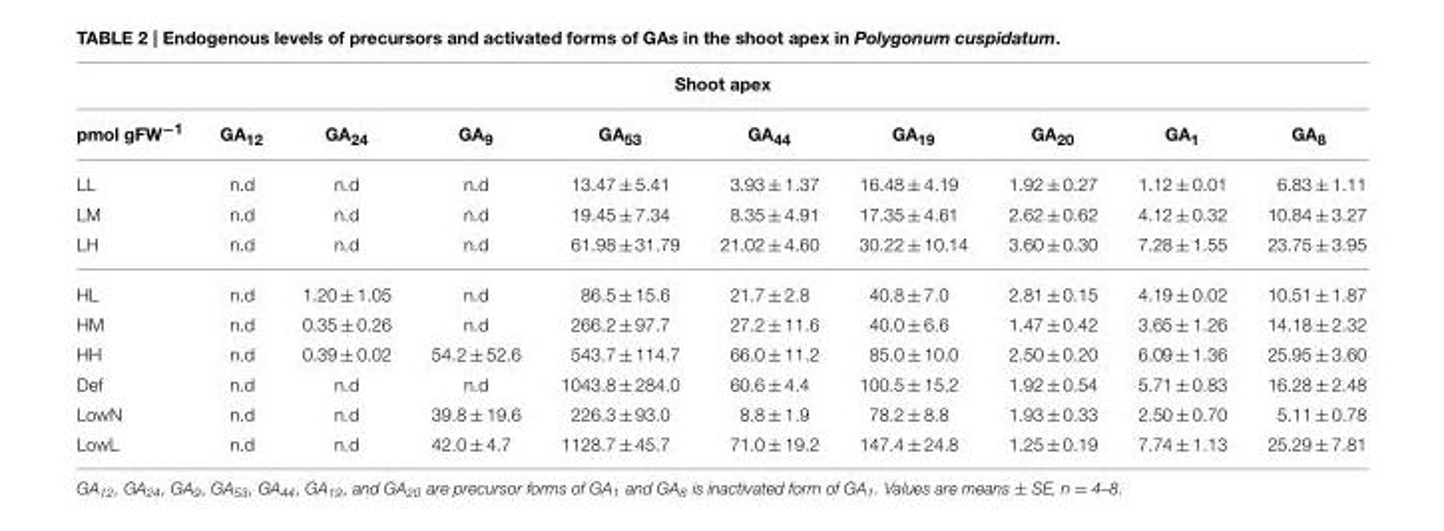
<table><thead><tr><td colspan="10">Shoot apex</td></tr><tr><td>pmol gFW<sup>−1</sup></td><td>GA<sub>12</sub></td><td>GA<sub>24</sub></td><td>GA<sub>9</sub></td><td>GA<sub>53</sub></td><td>GA<sub>44</sub></td><td>GA<sub>19</sub></td><td>GA<sub>20</sub></td><td>GA<sub>1</sub></td><td>GA<sub>8</sub></td></tr></thead><tbody><tr><td>LL</td><td>n.d</td><td>n.d</td><td>n.d</td><td>13.47 ± 5.41</td><td>3.93 ± 1.37</td><td>16.48 ± 4.19</td><td>1.92 ± 0.27</td><td>1.12 ± 0.01</td><td>6.83 ± 1.11</td></tr><tr><td>LM</td><td>n.d</td><td>n.d</td><td>n.d</td><td>19.45 ± 7.34</td><td>8.35 ± 4.91</td><td>17.35 ± 4.61</td><td>2.62 ± 0.62</td><td>4.12 ± 0.32</td><td>10.84 ± 3.27</td></tr><tr><td>LH</td><td>n.d</td><td>n.d</td><td>n.d</td><td>61.98 ± 31.79</td><td>21.02 ± 4.60</td><td>30.22 ± 10.14</td><td>3.60 ± 0.30</td><td>7.28 ± 1.55</td><td>23.75 ± 3.95</td></tr><tr><td>HL</td><td>n.d</td><td>1.20 ± 1.05</td><td>n.d</td><td>86.5 ± 15.6</td><td>21.7 ± 2.8</td><td>40.8 ± 7.0</td><td>2.81 ± 0.15</td><td>4.19 ± 0.02</td><td>10.51 ± 1.87</td></tr><tr><td>HM</td><td>n.d</td><td>0.35 ± 0.26</td><td>n.d</td><td>266.2 ± 97.7</td><td>27.2 ± 11.6</td><td>40.0 ± 6.6</td><td>1.47 ± 0.42</td><td>3.65 ± 1.26</td><td>14.18 ± 2.32</td></tr><tr><td>HH</td><td>n.d</td><td>0.39 ± 0.02</td><td>54.2 ± 52.6</td><td>543.7 ± 114.7</td><td>66.0 ± 11.2</td><td>85.0 ± 10.0</td><td>2.50 ± 0.20</td><td>6.09 ± 1.36</td><td>25.95 ± 3.60</td></tr><tr><td>Def</td><td>n.d</td><td>n.d</td><td>n.d</td><td>1043.8 ± 284.0</td><td>60.6 ± 4.4</td><td>100.5 ± 15.2</td><td>1.92 ± 0.54</td><td>5.71 ± 0.83</td><td>16.28 ± 2.48</td></tr><tr><td>LowN</td><td>n.d</td><td>n.d</td><td>39.8 ± 19.6</td><td>226.3 ± 93.0</td><td>8.8 ± 1.9</td><td>78.2 ± 8.8</td><td>1.93 ± 0.33</td><td>2.50 ± 0.70</td><td>5.11 ± 0.78</td></tr><tr><td>LowL</td><td>n.d</td><td>n.d</td><td>42.0 ± 4.7</td><td>1128.7 ± 45.7</td><td>71.0 ± 19.2</td><td>147.4 ± 24.8</td><td>1.25 ± 0.19</td><td>7.74 ± 1.13</td><td>25.29 ± 7.81</td></tr></tbody></table>